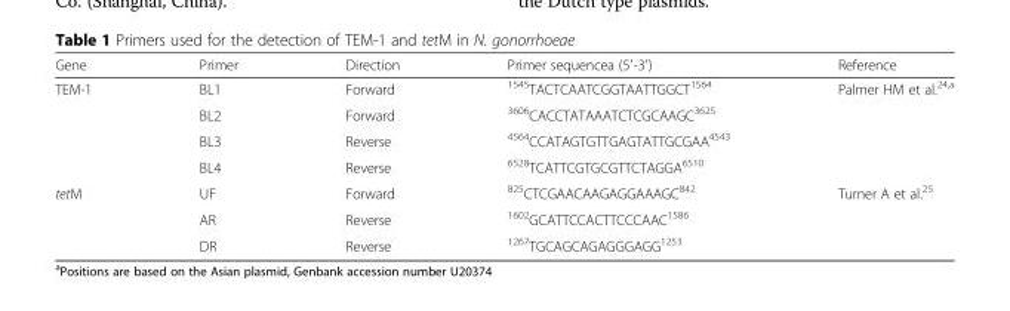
<table><thead><tr><td>Gene</td><td>Primer</td><td>Direction</td><td>Primer sequencea (5′-3′)</td><td>Reference</td></tr></thead><tbody><tr><td rowspan="4">TEM-1</td><td>BL1</td><td>Forward</td><td><sup>1545</sup>TACTCAATCGGTAATTGGCT<sup>1564</sup></td><td rowspan="4">Palmer HM et al.<sup>24,a</sup></td></tr><tr><td>BL2</td><td>Forward</td><td><sup>3606</sup>CACCTATAAATCTCGCAAGC<sup>3625</sup></td></tr><tr><td>BL3</td><td>Reverse</td><td><sup>4564</sup>CCATAGTGTTGAGTATTGCGAA<sup>4543</sup></td></tr><tr><td>BL4</td><td>Reverse</td><td><sup>6528</sup>TCATTCGTGCGTTCTAGGA<sup>6510</sup></td></tr><tr><td rowspan="3">tetM</td><td>UF</td><td>Forward</td><td><sup>825</sup>CTCGAACAAGAGGAAAGC<sup>842</sup></td><td rowspan="3">Turner A et al.<sup>25</sup></td></tr><tr><td>AR</td><td>Reverse</td><td><sup>1602</sup>GCATTCCACTTCCCAAC<sup>1586</sup></td></tr><tr><td>DR</td><td>Reverse</td><td><sup>1267</sup>TGCAGCAGAGGGAGG<sup>1253</sup></td></tr></tbody></table>